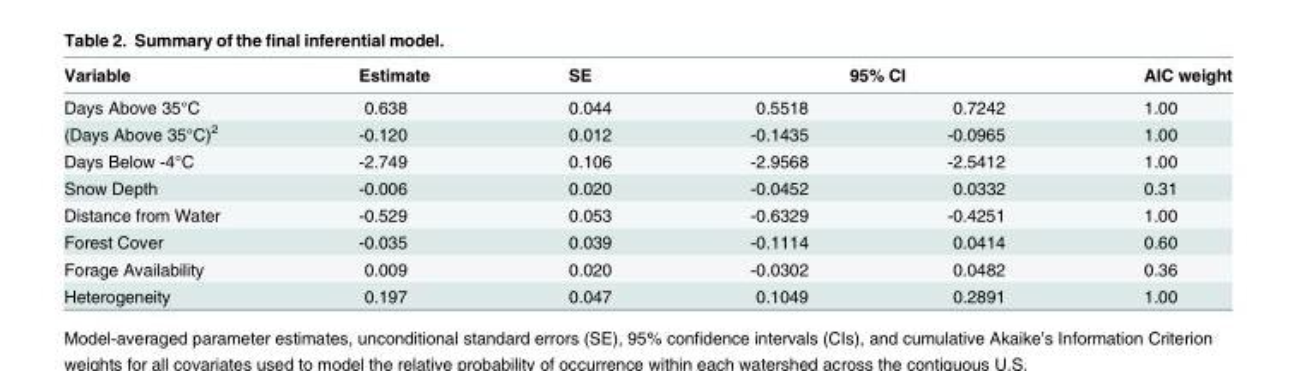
<table><thead><tr><td rowspan="2">Variable Days Above 35°C</td><td rowspan="2">Estimate 0.638</td><td rowspan="2">SE 0.044</td><td colspan="2">95% CI</td><td rowspan="2">AIC weight 1.00</td></tr><tr><td>0.5518</td><td>0.7242</td></tr></thead><tbody><tr><td>(Days Above 35°C)<sup>2</sup></td><td>-0.120</td><td>0.012</td><td>-0.1435</td><td>-0.0965</td><td>1.00</td></tr><tr><td>Days Below -4°C</td><td>-2.749</td><td>0.106</td><td>-2.9568</td><td>-2.5412</td><td>1.00</td></tr><tr><td>Snow Depth</td><td>-0.006</td><td>0.020</td><td>-0.0452</td><td>0.0332</td><td>0.31</td></tr><tr><td>Distance from Water</td><td>-0.529</td><td>0.053</td><td>-0.6329</td><td>-0.4251</td><td>1.00</td></tr><tr><td>Forest Cover</td><td>-0.035</td><td>0.039</td><td>-0.1114</td><td>0.0414</td><td>0.60</td></tr><tr><td>Forage Availability</td><td>0.009</td><td>0.020</td><td>-0.0302</td><td>0.0482</td><td>0.36</td></tr><tr><td>Heterogeneity</td><td>0.197</td><td>0.047</td><td>0.1049</td><td>0.2891</td><td>1.00</td></tr></tbody></table>